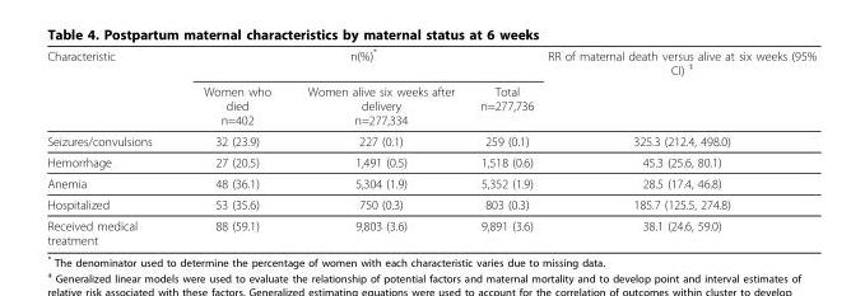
<table><thead><tr><td rowspan="2">Characteristic</td><td colspan="3">n(%)*</td><td rowspan="2">RR of maternal death versus alive at six weeks (95% CI) <sup>‡</sup></td></tr><tr><td>Women who died n=402</td><td>Women alive six weeks after delivery n=277,334</td><td>Total n=277,736</td></tr></thead><tbody><tr><td>Seizures/convulsions</td><td>32 (23.9)</td><td>227 (0.1)</td><td>259 (0.1)</td><td>325.3 (212.4, 498.0)</td></tr><tr><td>Hemorrhage</td><td>27 (20.5)</td><td>1,491 (0.5)</td><td>1,518 (0.6)</td><td>45.3 (25.6, 80.1)</td></tr><tr><td>Anemia</td><td>48 (36.1)</td><td>5,304 (1.9)</td><td>5,352 (1.9)</td><td>28.5 (17.4, 46.8)</td></tr><tr><td>Hospitalized</td><td>53 (35.6)</td><td>750 (0.3)</td><td>803 (0.3)</td><td>185.7 (125.5, 274.8)</td></tr><tr><td>Received medical treatment</td><td>88 (59.1)</td><td>9,803 (3.6)</td><td>9,891 (3.6)</td><td>38.1 (24.6, 59.0)</td></tr></tbody></table>